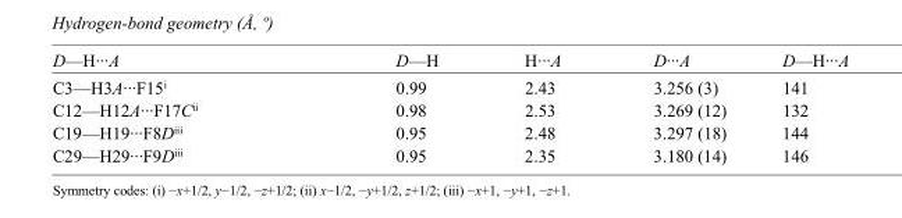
<table><tbody><tr><td>D—H···A</td><td>D—H</td><td>H···A</td><td>D···A</td><td>D—H···A</td></tr><tr><td>C3—H3A···F15<sup>i</sup></td><td>0.99</td><td>2.43</td><td>3.256 (3)</td><td>141</td></tr><tr><td>C12—H12A···F17C<sup>ii</sup></td><td>0.98</td><td>2.53</td><td>3.269 (12)</td><td>132</td></tr><tr><td>C19—H19···F8D<sup>iii</sup></td><td>0.95</td><td>2.48</td><td>3.297 (18)</td><td>144</td></tr><tr><td>C29—H29···F9D<sup>iii</sup></td><td>0.95</td><td>2.35</td><td>3.180 (14)</td><td>146</td></tr></tbody></table>